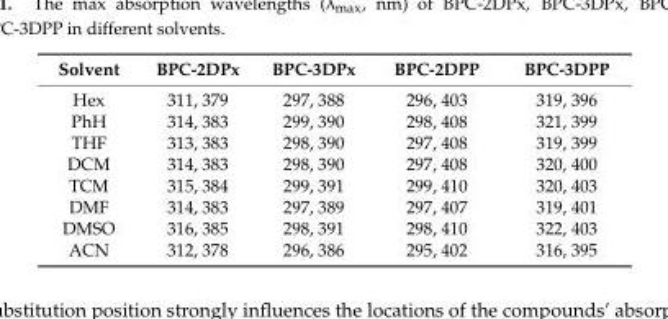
<table><thead><tr><td>Solvent</td><td>BPC-2DPx</td><td>BPC-3DPx</td><td>BPC-2DPP</td><td>BPC-3DPP</td></tr></thead><tbody><tr><td>Hex</td><td>311, 379</td><td>297, 388</td><td>296, 403</td><td>319, 396</td></tr><tr><td>PhH</td><td>314, 383</td><td>299, 390</td><td>298, 408</td><td>321, 399</td></tr><tr><td>THF</td><td>313, 383</td><td>298, 390</td><td>297, 408</td><td>319, 399</td></tr><tr><td>DCM</td><td>314, 383</td><td>298, 390</td><td>297, 408</td><td>320, 400</td></tr><tr><td>TCM</td><td>315, 384</td><td>299, 391</td><td>299, 410</td><td>320, 403</td></tr><tr><td>DMF</td><td>314, 383</td><td>297, 389</td><td>297, 407</td><td>319, 401</td></tr><tr><td>DMSO</td><td>316, 385</td><td>298, 391</td><td>298, 410</td><td>322, 403</td></tr><tr><td>ACN</td><td>312, 378</td><td>296, 386</td><td>295, 402</td><td>316, 395</td></tr></tbody></table>